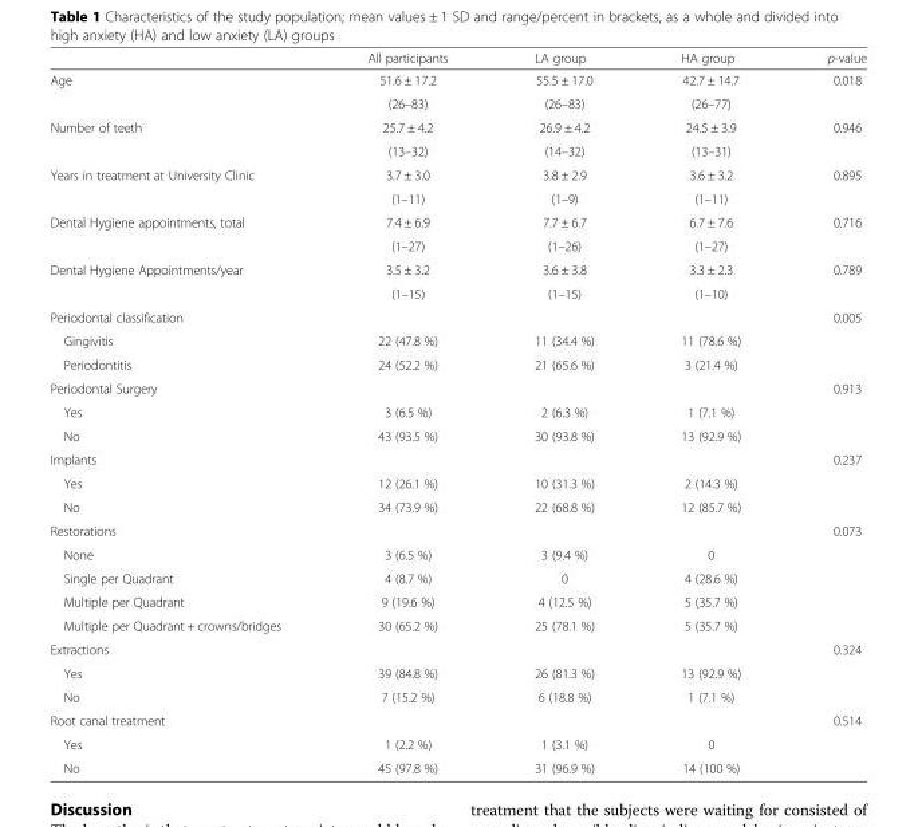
<table><thead><tr><td></td><td>All participants</td><td>LA group</td><td>HA group</td><td>p-value</td></tr></thead><tbody><tr><td rowspan="2">Age</td><td>51.6 ± 17.2</td><td>55.5 ± 17.0</td><td>42.7 ± 14.7</td><td rowspan="2">0.018</td></tr><tr><td>(26–83)</td><td>(26–83)</td><td>(26–77)</td></tr><tr><td rowspan="2">Number of teeth</td><td>25.7 ± 4.2</td><td>26.9 ± 4.2</td><td>24.5 ± 3.9</td><td rowspan="2">0.946</td></tr><tr><td>(13–32)</td><td>(14–32)</td><td>(13–31)</td></tr><tr><td rowspan="2">Years in treatment at University Clinic</td><td>3.7 ± 3.0</td><td>3.8 ± 2.9</td><td>3.6 ± 3.2</td><td rowspan="2">0.895</td></tr><tr><td>(1–11)</td><td>(1–9)</td><td>(1–11)</td></tr><tr><td rowspan="2">Dental Hygiene appointments, total</td><td>7.4 ± 6.9</td><td>7.7 ± 6.7</td><td>6.7 ± 7.6</td><td rowspan="2">0.716</td></tr><tr><td>(1–27)</td><td>(1–26)</td><td>(1–27)</td></tr><tr><td rowspan="2">Dental Hygiene Appointments/year</td><td>3.5 ± 3.2</td><td>3.6 ± 3.8</td><td>3.3 ± 2.3</td><td rowspan="2">0.789</td></tr><tr><td>(1–15)</td><td>(1–15)</td><td>(1–10)</td></tr><tr><td colspan="4">Periodontal classification</td><td rowspan="3">0.005</td></tr><tr><td>Gingivitis</td><td>22 (47.8 %)</td><td>11 (34.4 %)</td><td>11 (78.6 %)</td></tr><tr><td>Periodontitis</td><td>24 (52.2 %)</td><td>21 (65.6 %)</td><td>3 (21.4 %)</td></tr><tr><td colspan="4">Periodontal Surgery</td><td rowspan="3">0.913</td></tr><tr><td>Yes</td><td>3 (6.5 %)</td><td>2 (6.3 %)</td><td>1 (7.1 %)</td></tr><tr><td>No</td><td>43 (93.5 %)</td><td>30 (93.8 %)</td><td>13 (92.9 %)</td></tr><tr><td colspan="4">Implants</td><td rowspan="3">0.237</td></tr><tr><td>Yes</td><td>12 (26.1 %)</td><td>10 (31.3 %)</td><td>2 (14.3 %)</td></tr><tr><td>No</td><td>34 (73.9 %)</td><td>22 (68.8 %)</td><td>12 (85.7 %)</td></tr><tr><td colspan="4">Restorations</td><td rowspan="5">0.073</td></tr><tr><td>None</td><td>3 (6.5 %)</td><td>3 (9.4 %)</td><td>0</td></tr><tr><td>Single per Quadrant</td><td>4 (8.7 %)</td><td>0</td><td>4 (28.6 %)</td></tr><tr><td>Multiple per Quadrant</td><td>9 (19.6 %)</td><td>4 (12.5 %)</td><td>5 (35.7 %)</td></tr><tr><td>Multiple per Quadrant + crowns/bridges</td><td>30 (65.2 %)</td><td>25 (78.1 %)</td><td>5 (35.7 %)</td></tr><tr><td colspan="4">Extractions</td><td rowspan="3">0.324</td></tr><tr><td>Yes</td><td>39 (84.8 %)</td><td>26 (81.3 %)</td><td>13 (92.9 %)</td></tr><tr><td>No</td><td>7 (15.2 %)</td><td>6 (18.8 %)</td><td>1 (7.1 %)</td></tr><tr><td colspan="4">Root canal treatment</td><td rowspan="3">0.514</td></tr><tr><td>Yes</td><td>1 (2.2 %)</td><td>1 (3.1 %)</td><td>0</td></tr><tr><td>No</td><td>45 (97.8 %)</td><td>31 (96.9 %)</td><td>14 (100 %)</td></tr></tbody></table>